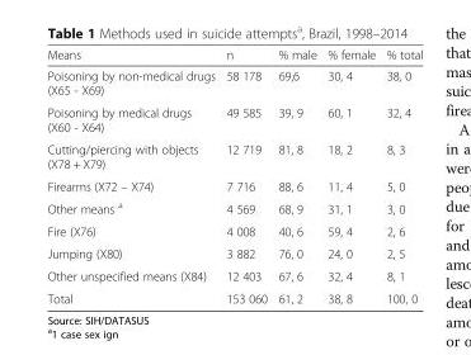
<table><thead><tr><td>Means</td><td>n</td><td>% male</td><td>% female</td><td>% total</td></tr></thead><tbody><tr><td>Poisoning by non-medical drugs (X65 - X69)</td><td>58 178</td><td>69,6</td><td>30, 4</td><td>38, 0</td></tr><tr><td>Poisoning by medical drugs (X60 - X64)</td><td>49 585</td><td>39, 9</td><td>60, 1</td><td>32, 4</td></tr><tr><td>Cutting/piercing with objects (X78 + X79)</td><td>12 719</td><td>81, 8</td><td>18, 2</td><td>8, 3</td></tr><tr><td>Firearms (X72 – X74)</td><td>7 716</td><td>88, 6</td><td>11, 4</td><td>5, 0</td></tr><tr><td>Other means <sup>a</sup></td><td>4 569</td><td>68, 9</td><td>31, 1</td><td>3, 0</td></tr><tr><td>Fire (X76)</td><td>4 008</td><td>40, 6</td><td>59, 4</td><td>2, 6</td></tr><tr><td>Jumping (X80)</td><td>3 882</td><td>76, 0</td><td>24, 0</td><td>2, 5</td></tr><tr><td>Other unspecified means (X84)</td><td>12 403</td><td>67, 6</td><td>32, 4</td><td>8, 1</td></tr><tr><td>Total</td><td>153 060</td><td>61, 2</td><td>38, 8</td><td>100, 0</td></tr></tbody></table>